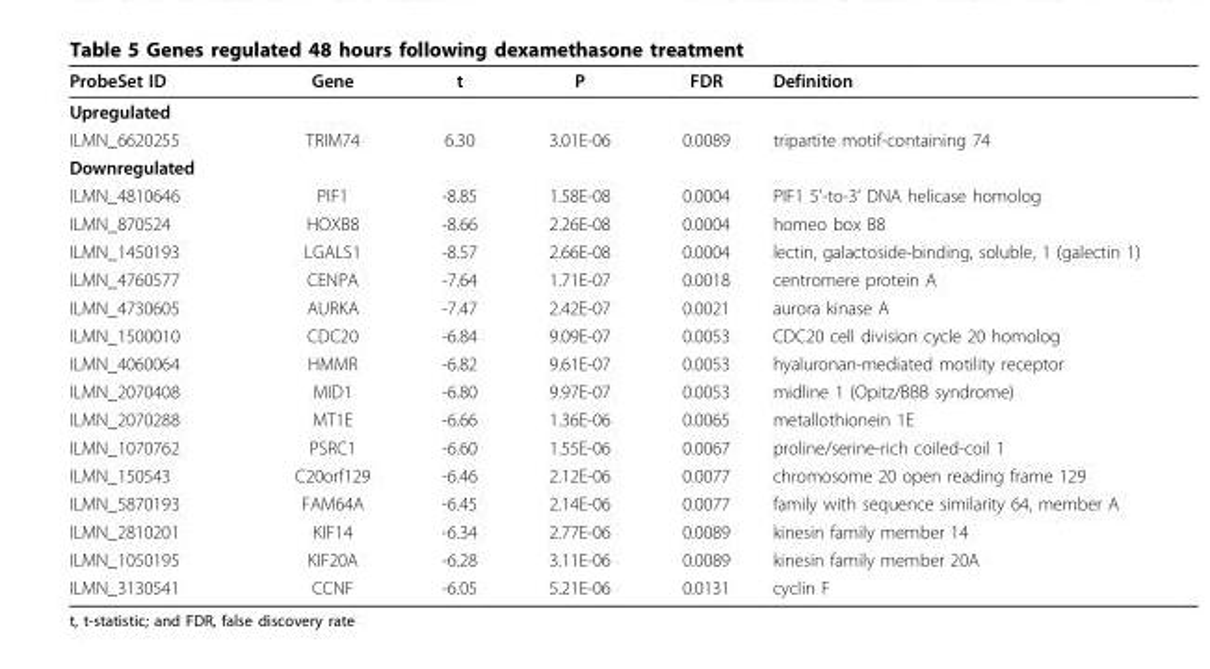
<table><thead><tr><td>ProbeSet ID</td><td>Gene</td><td>t</td><td>P</td><td>FDR</td><td>Definition</td></tr></thead><tbody><tr><td colspan="6">Upregulated</td></tr><tr><td>ILMN_6620255</td><td>TRIM74</td><td>6.30</td><td>3.01E-06</td><td>0.0089</td><td>tripartite motif-containing 74</td></tr><tr><td colspan="6">Downregulated</td></tr><tr><td>ILMN_4810646</td><td>PIF1</td><td>-8.85</td><td>1.58E-08</td><td>0.0004</td><td>PIF1 5’-to-3’ DNA helicase homolog</td></tr><tr><td>ILMN_870524</td><td>HOXB8</td><td>-8.66</td><td>2.26E-08</td><td>0.0004</td><td>homeo box B8</td></tr><tr><td>ILMN_1450193</td><td>LGALS1</td><td>-8.57</td><td>2.66E-08</td><td>0.0004</td><td>lectin, galactoside-binding, soluble, 1 (galectin 1)</td></tr><tr><td>ILMN_4760577</td><td>CENPA</td><td>-7.64</td><td>1.71E-07</td><td>0.0018</td><td>centromere protein A</td></tr><tr><td>ILMN_4730605</td><td>AURKA</td><td>-7.47</td><td>2.42E-07</td><td>0.0021</td><td>aurora kinase A</td></tr><tr><td>ILMN_1500010</td><td>CDC20</td><td>-6.84</td><td>9.09E-07</td><td>0.0053</td><td>CDC20 cell division cycle 20 homolog</td></tr><tr><td>ILMN_4060064</td><td>HMMR</td><td>-6.82</td><td>9.61E-07</td><td>0.0053</td><td>hyaluronan-mediated motility receptor</td></tr><tr><td>ILMN_2070408</td><td>MID1</td><td>-6.80</td><td>9.97E-07</td><td>0.0053</td><td>midline 1 (Opitz/BBB syndrome)</td></tr><tr><td>ILMN_2070288</td><td>MT1E</td><td>-6.66</td><td>1.36E-06</td><td>0.0065</td><td>metallothionein 1E</td></tr><tr><td>ILMN_1070762</td><td>PSRC1</td><td>-6.60</td><td>1.55E-06</td><td>0.0067</td><td>proline/serine-rich coiled-coil 1</td></tr><tr><td>ILMN_150543</td><td>C20orf129</td><td>-6.46</td><td>2.12E-06</td><td>0.0077</td><td>chromosome 20 open reading frame 129</td></tr><tr><td>ILMN_5870193</td><td>FAM64A</td><td>-6.45</td><td>2.14E-06</td><td>0.0077</td><td>family with sequence similarity 64, member A</td></tr><tr><td>ILMN_2810201</td><td>KIF14</td><td>-6.34</td><td>2.77E-06</td><td>0.0089</td><td>kinesin family member 14</td></tr><tr><td>ILMN_1050195</td><td>KIF20A</td><td>-6.28</td><td>3.11E-06</td><td>0.0089</td><td>kinesin family member 20A</td></tr><tr><td>ILMN_3130541</td><td>CCNF</td><td>-6.05</td><td>5.21E-06</td><td>0.0131</td><td>cyclin F</td></tr></tbody></table>